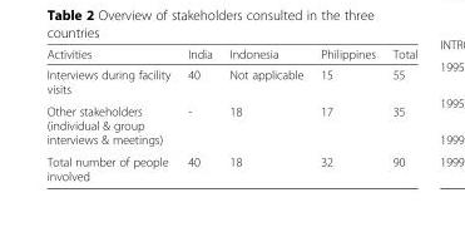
<table><thead><tr><td>Activities</td><td>India</td><td>Indonesia</td><td>Philippines</td><td>Total</td></tr></thead><tbody><tr><td>Interviews during facility visits</td><td>40</td><td>Not applicable</td><td>15</td><td>55</td></tr><tr><td>Other stakeholders (individual &amp; group interviews &amp; meetings)</td><td>-</td><td>18</td><td>17</td><td>35</td></tr><tr><td>Total number of people involved</td><td>40</td><td>18</td><td>32</td><td>90</td></tr></tbody></table>